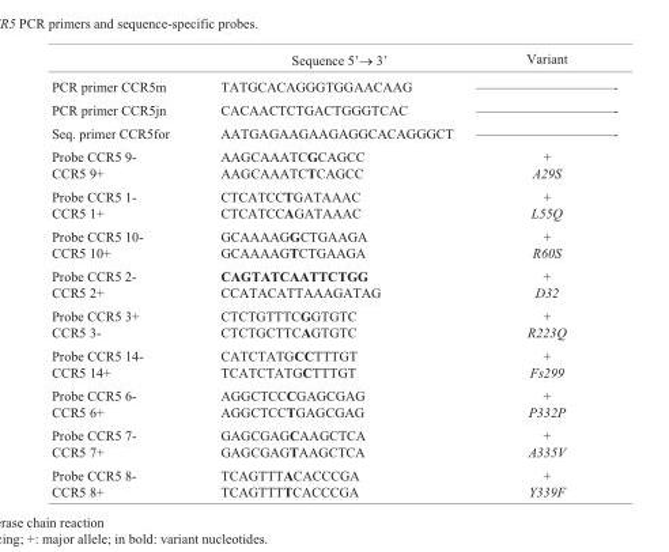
<table><thead><tr><td></td><td>Sequence 5’→ 3’</td><td>Variant</td></tr></thead><tbody><tr><td>PCR primer CCR5m</td><td>TATGCACAGGGTGGAACAAG</td><td>——————————-</td></tr><tr><td>PCR primer CCR5jn</td><td>CACAACTCTGACTGGGTCAC</td><td>——————————-</td></tr><tr><td>Seq. primer CCR5for</td><td>AATGAGAAGAAGAGGCACAGGGCT</td><td>——————————-</td></tr><tr><td>Probe CCR5 9- CCR5 9+</td><td>AAGCAAATCGCAGCC AAGCAAATCTCAGCC</td><td>+ A29S</td></tr><tr><td>Probe CCR5 1- CCR5 1+</td><td>CTCATCCTGATAAAC CTCATCCAGATAAAC</td><td>+ L55Q</td></tr><tr><td>Probe CCR5 10- CCR5 10+</td><td>GCAAAAGGCTGAAGA GCAAAAGTCTGAAGA</td><td>+ R60S</td></tr><tr><td>Probe CCR5 2- CCR5 2+</td><td>CAGTATCAATTCTGG CCATACATTAAAGATAG</td><td>+ D32</td></tr><tr><td>Probe CCR5 3+ CCR5 3-</td><td>CTCTGTTTCGGTGTC CTCTGCTTCAGTGTC</td><td>+ R223Q</td></tr><tr><td>Probe CCR5 14- CCR5 14+</td><td>CATCTATGCCTTTGT TCATCTATGCTTTGT</td><td>+ Fs299</td></tr><tr><td>Probe CCR5 6- CCR5 6+</td><td>AGGCTCCCGAGCGAG AGGCTCCTGAGCGAG</td><td>+ P332P</td></tr><tr><td>Probe CCR5 7- CCR5 7+</td><td>GAGCGAGCAAGCTCA GAGCGAGTAAGCTCA</td><td>+ A335V</td></tr><tr><td>Probe CCR5 8- CCR5 8+</td><td>TCAGTTTACACCCGA TCAGTTTTCACCCGA</td><td>+ Y339F</td></tr></tbody></table>